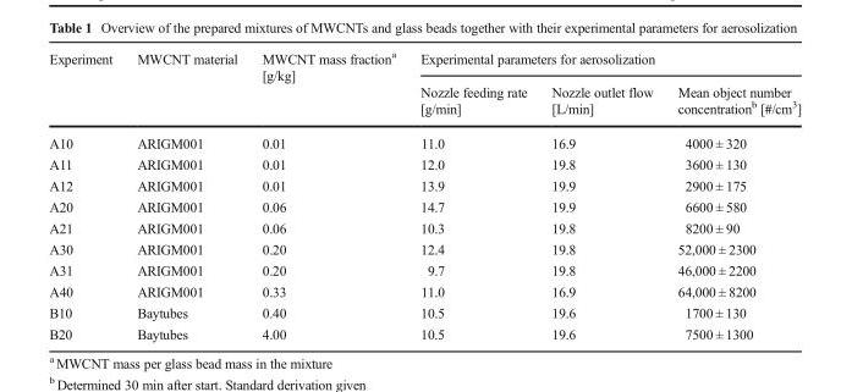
<table><thead><tr><td rowspan="2">Experiment</td><td rowspan="2">MWCNT material</td><td rowspan="2">MWCNT mass fraction<sup>a</sup> [g/kg]</td><td colspan="3">Experimental parameters for aerosolization</td></tr><tr><td>Nozzle feeding rate [g/min]</td><td>Nozzle outlet flow [L/min]</td><td>Mean object number concentration<sup>b</sup> [#/cm<sup>3</sup>]</td></tr></thead><tbody><tr><td>A10</td><td>ARIGM001</td><td>0.01</td><td>11.0</td><td>16.9</td><td>4000 ± 320</td></tr><tr><td>A11</td><td>ARIGM001</td><td>0.01</td><td>12.0</td><td>19.8</td><td>3600 ± 130</td></tr><tr><td>A12</td><td>ARIGM001</td><td>0.01</td><td>13.9</td><td>19.9</td><td>2900 ± 175</td></tr><tr><td>A20</td><td>ARIGM001</td><td>0.06</td><td>14.7</td><td>19.9</td><td>6600 ± 580</td></tr><tr><td>A21</td><td>ARIGM001</td><td>0.06</td><td>10.3</td><td>19.8</td><td>8200 ± 90</td></tr><tr><td>A30</td><td>ARIGM001</td><td>0.20</td><td>12.4</td><td>19.8</td><td>52,000 ± 2300</td></tr><tr><td>A31</td><td>ARIGM001</td><td>0.20</td><td>9.7</td><td>19.8</td><td>46,000 ± 2200</td></tr><tr><td>A40</td><td>ARIGM001</td><td>0.33</td><td>11.0</td><td>16.9</td><td>64,000 ± 8200</td></tr><tr><td>B10</td><td>Baytubes</td><td>0.40</td><td>10.5</td><td>19.6</td><td>1700 ± 130</td></tr><tr><td>B20</td><td>Baytubes</td><td>4.00</td><td>10.5</td><td>19.6</td><td>7500 ± 1300</td></tr></tbody></table>